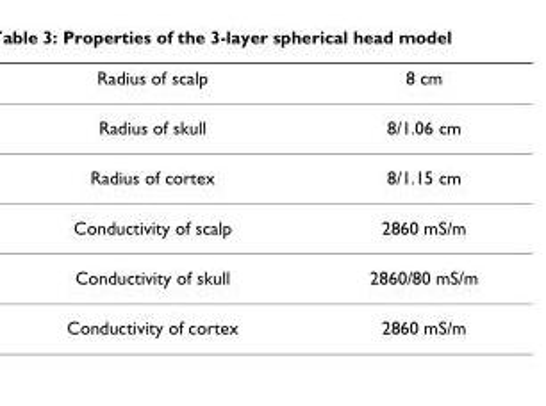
<table><thead><tr><td>Radius of scalp</td><td>8 cm</td></tr></thead><tbody><tr><td>Radius of skull</td><td>8/1.06 cm</td></tr><tr><td>Radius of cortex</td><td>8/1.15 cm</td></tr><tr><td>Conductivity of scalp</td><td>2860 mS/m</td></tr><tr><td>Conductivity of skull</td><td>2860/80 mS/m</td></tr><tr><td>Conductivity of cortex</td><td>2860 mS/m</td></tr></tbody></table>